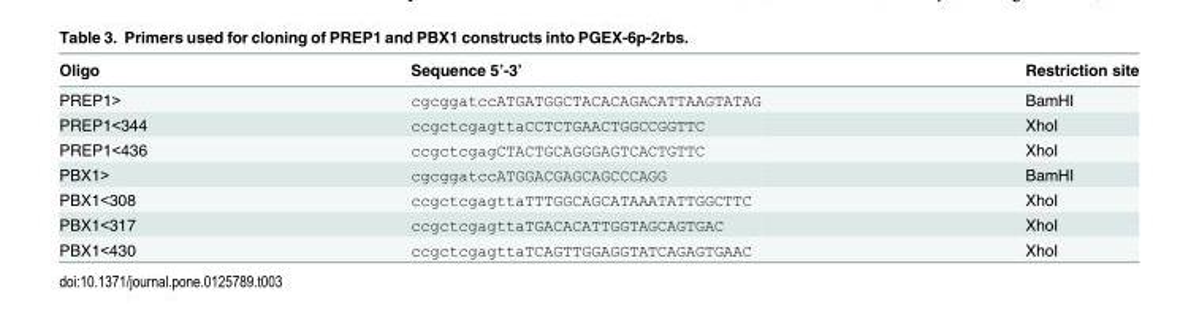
<table><thead><tr><td>Oligo</td><td>Sequence 5’-3’</td><td>Restriction site</td></tr></thead><tbody><tr><td>PREP1&gt;</td><td>cgcggatccATGATGGCTACACAGACATTAAGTATAG</td><td>BamHI</td></tr><tr><td>PREP1&lt;344</td><td>ccgctcgagttaCCTCTGAACTGGCCGGTTC</td><td>XhoI</td></tr><tr><td>PREP1&lt;436</td><td>ccgctcgagCTACTGCAGGGAGTCACTGTTC</td><td>XhoI</td></tr><tr><td>PBX1&gt;</td><td>cgcggatccATGGACGAGCAGCCCAGG</td><td>BamHI</td></tr><tr><td>PBX1&lt;308</td><td>ccgctcgagttaTTTGGCAGCATAAATATTGGCTTC</td><td>XhoI</td></tr><tr><td>PBX1&lt;317</td><td>ccgctcgagttaTGACACATTGGTAGCAGTGAC</td><td>XhoI</td></tr><tr><td>PBX1&lt;430</td><td>ccgctcgagttaTCAGTTGGAGGTATCAGAGTGAAC</td><td>XhoI</td></tr></tbody></table>